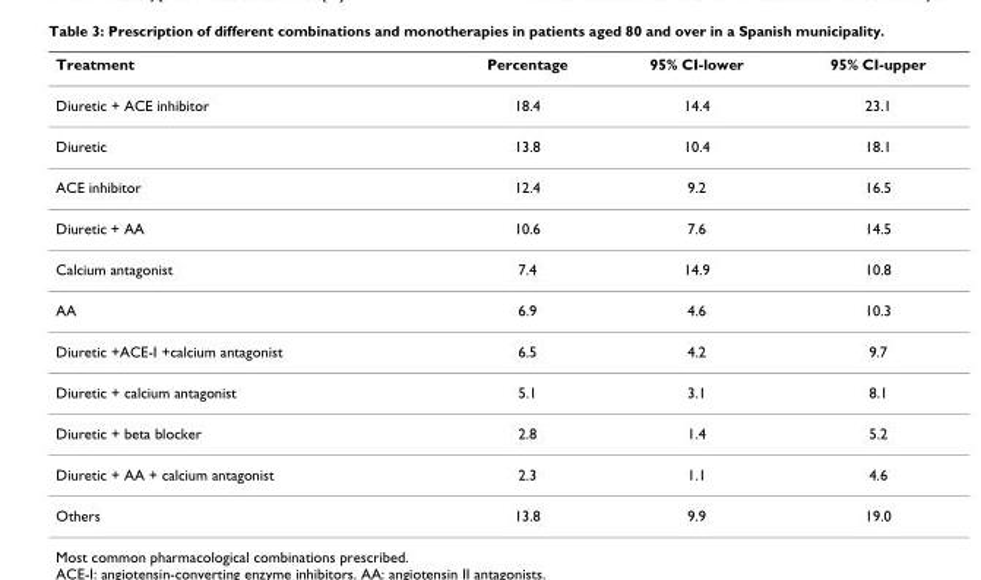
<table><thead><tr><td>Treatment</td><td>Percentage</td><td>95% CI-lower</td><td>95% CI-upper</td></tr></thead><tbody><tr><td>Diuretic + ACE inhibitor</td><td>18.4</td><td>14.4</td><td>23.1</td></tr><tr><td>Diuretic</td><td>13.8</td><td>10.4</td><td>18.1</td></tr><tr><td>ACE inhibitor</td><td>12.4</td><td>9.2</td><td>16.5</td></tr><tr><td>Diuretic + AA</td><td>10.6</td><td>7.6</td><td>14.5</td></tr><tr><td>Calcium antagonist</td><td>7.4</td><td>14.9</td><td>10.8</td></tr><tr><td>AA</td><td>6.9</td><td>4.6</td><td>10.3</td></tr><tr><td>Diuretic +ACE-I +calcium antagonist</td><td>6.5</td><td>4.2</td><td>9.7</td></tr><tr><td>Diuretic + calcium antagonist</td><td>5.1</td><td>3.1</td><td>8.1</td></tr><tr><td>Diuretic + beta blocker</td><td>2.8</td><td>1.4</td><td>5.2</td></tr><tr><td>Diuretic + AA + calcium antagonist</td><td>2.3</td><td>1.1</td><td>4.6</td></tr><tr><td>Others</td><td>13.8</td><td>9.9</td><td>19.0</td></tr></tbody></table>